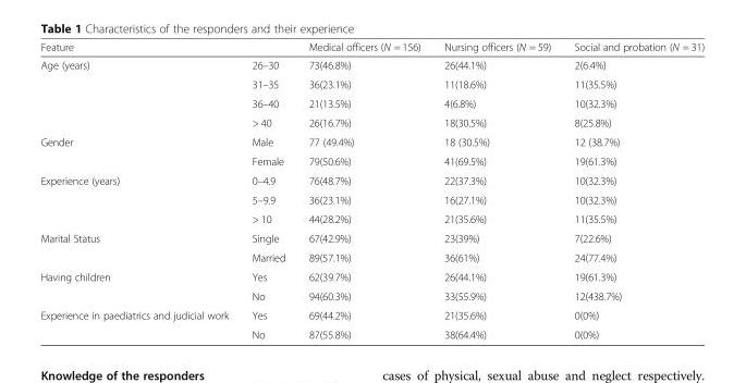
<table><thead><tr><td>Feature</td><td></td><td>Medical officers (N = 156)</td><td>Nursing officers (N = 59)</td><td>Social and probation (N = 31)</td></tr></thead><tbody><tr><td rowspan="4">Age (years)</td><td>26–30</td><td>73(46.8%)</td><td>26(44.1%)</td><td>2(6.4%)</td></tr><tr><td>31–35</td><td>36(23.1%)</td><td>11(18.6%)</td><td>11(35.5%)</td></tr><tr><td>36–40</td><td>21(13.5%)</td><td>4(6.8%)</td><td>10(32.3%)</td></tr><tr><td>&gt; 40</td><td>26(16.7%)</td><td>18(30.5%)</td><td>8(25.8%)</td></tr><tr><td rowspan="2">Gender</td><td>Male</td><td>77 (49.4%)</td><td>18 (30.5%)</td><td>12 (38.7%)</td></tr><tr><td>Female</td><td>79(50.6%)</td><td>41(69.5%)</td><td>19(61.3%)</td></tr><tr><td rowspan="3">Experience (years)</td><td>0–4.9</td><td>76(48.7%)</td><td>22(37.3%)</td><td>10(32.3%)</td></tr><tr><td>5–9.9</td><td>36(23.1%)</td><td>16(27.1%)</td><td>10(32.3%)</td></tr><tr><td>&gt; 10</td><td>44(28.2%)</td><td>21(35.6%)</td><td>11(35.5%)</td></tr><tr><td rowspan="2">Marital Status</td><td>Single</td><td>67(42.9%)</td><td>23(39%)</td><td>7(22.6%)</td></tr><tr><td>Married</td><td>89(57.1%)</td><td>36(61%)</td><td>24(77.4%)</td></tr><tr><td rowspan="2">Having children</td><td>Yes</td><td>62(39.7%)</td><td>26(44.1%)</td><td>19(61.3%)</td></tr><tr><td>No</td><td>94(60.3%)</td><td>33(55.9%)</td><td>12(438.7%)</td></tr><tr><td rowspan="2">Experience in paediatrics and judicial work</td><td>Yes</td><td>69(44.2%)</td><td>21(35.6%)</td><td>0(0%)</td></tr><tr><td>No</td><td>87(55.8%)</td><td>38(64.4%)</td><td>0(0%)</td></tr></tbody></table>